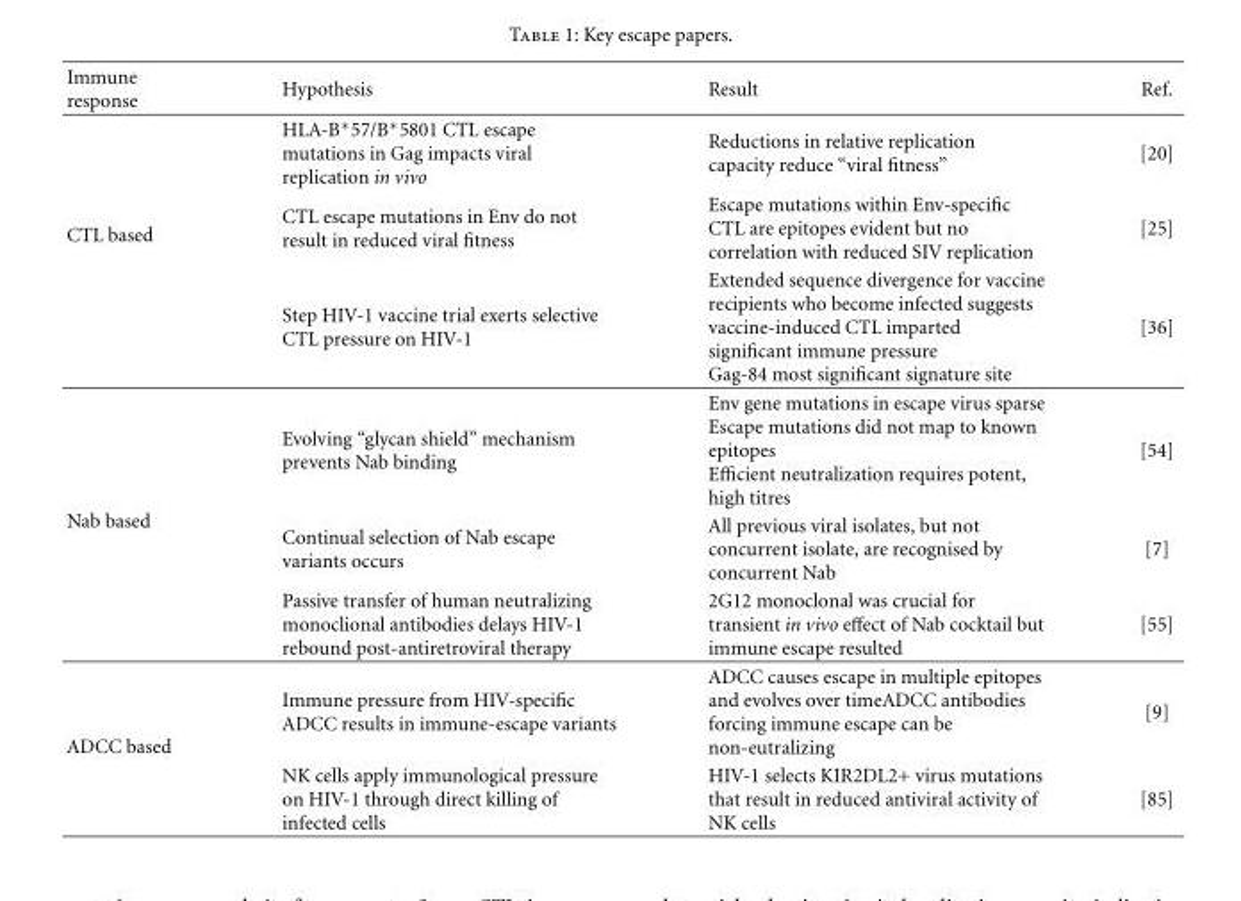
<table><thead><tr><td>Immune response</td><td>Hypothesis</td><td>Result</td><td>Ref.</td></tr></thead><tbody><tr><td rowspan="3">CTL based</td><td>HLA-B∗57/B∗5801 CTL escape mutations in Gag impacts viral replication in vivo</td><td>Reductions in relative replication capacity reduce “viral fitness”</td><td>[20]</td></tr><tr><td>CTL escape mutations in Env do not result in reduced viral fitness</td><td>Escape mutations within Env-specific CTL are epitopes evident but no correlation with reduced SIV replication</td><td>[25]</td></tr><tr><td>Step HIV-1 vaccine trial exerts selective CTL pressure on HIV-1</td><td>Extended sequence divergence for vaccine recipients who become infected suggests vaccine-induced CTL imparted significant immune pressure Gag-84 most significant signature site</td><td>[36]</td></tr><tr><td rowspan="3">Nab based</td><td>Evolving “glycan shield” mechanism prevents Nab binding</td><td>Env gene mutations in escape virus sparse Escape mutations did not map to known epitopes Efficient neutralization requires potent, high titres</td><td>[54]</td></tr><tr><td>Continual selection of Nab escape variants occurs</td><td>All previous viral isolates, but not concurrent isolate, are recognised by concurrent Nab</td><td>[7]</td></tr><tr><td>Passive transfer of human neutralizing monoclional antibodies delays HIV-1 rebound post-antiretroviral therapy</td><td>2G12 monoclonal was crucial for transient in vivo effect of Nab cocktail but immune escape resulted</td><td>[55]</td></tr><tr><td rowspan="2">ADCC based</td><td>Immune pressure from HIV-specific ADCC results in immune-escape variants</td><td>ADCC causes escape in multiple epitopes and evolves over timeADCC antibodies forcing immune escape can be non-eutralizing</td><td>[9]</td></tr><tr><td>NK cells apply immunological pressure on HIV-1 through direct killing of infected cells</td><td>HIV-1 selects KIR2DL2+ virus mutations that result in reduced antiviral activity of NK cells</td><td>[85]</td></tr></tbody></table>